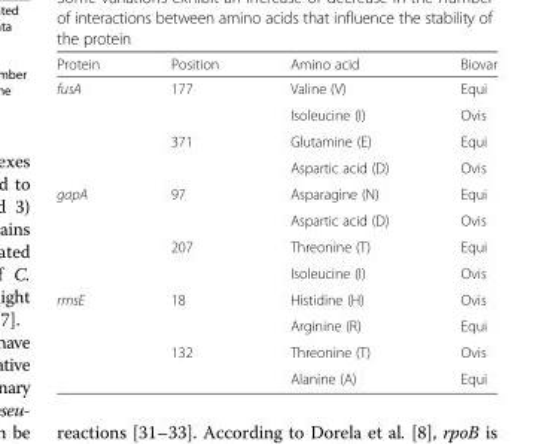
<table><thead><tr><td>Protein</td><td>Position</td><td>Amino acid</td><td>Biovar</td></tr></thead><tbody><tr><td rowspan="4">fusA</td><td rowspan="2">177</td><td>Valine (V)</td><td>Equi</td></tr><tr><td>Isoleucine (I)</td><td>Ovis</td></tr><tr><td rowspan="2">371</td><td>Glutamine (E)</td><td>Equi</td></tr><tr><td>Aspartic acid (D)</td><td>Ovis</td></tr><tr><td rowspan="4">gapA</td><td rowspan="2">97</td><td>Asparagine (N)</td><td>Equi</td></tr><tr><td>Aspartic acid (D)</td><td>Ovis</td></tr><tr><td rowspan="2">207</td><td>Threonine (T)</td><td>Equi</td></tr><tr><td>Isoleucine (I)</td><td>Ovis</td></tr><tr><td rowspan="4">rmsE</td><td rowspan="2">18</td><td>Histidine (H)</td><td>Ovis</td></tr><tr><td>Arginine (R)</td><td>Equi</td></tr><tr><td rowspan="2">132</td><td>Threonine (T)</td><td>Ovis</td></tr><tr><td>Alanine (A)</td><td>Equi</td></tr></tbody></table>